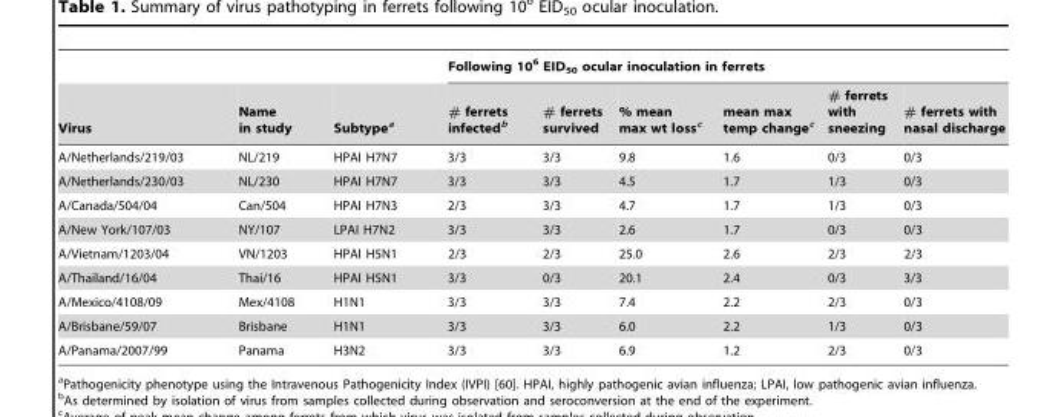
<table><thead><tr><td rowspan="2">Virus</td><td rowspan="2">Name in study</td><td rowspan="2">Subtype<sup>a</sup></td><td colspan="6">Following 10<sup>6</sup> EID<sub>50</sub> ocular inoculation in ferrets</td></tr><tr><td># ferrets infected<sup>b</sup></td><td># ferrets survived</td><td>% mean max wt loss<sup>c</sup></td><td>mean max temp change<sup>c</sup></td><td># ferrets with sneezing</td><td># ferrets with nasal discharge</td></tr></thead><tbody><tr><td>A/Netherlands/219/03</td><td>NL/219</td><td>HPAI H7N7</td><td>3/3</td><td>3/3</td><td>9.8</td><td>1.6</td><td>0/3</td><td>0/3</td></tr><tr><td>A/Netherlands/230/03</td><td>NL/230</td><td>HPAI H7N7</td><td>3/3</td><td>3/3</td><td>4.5</td><td>1.7</td><td>1/3</td><td>0/3</td></tr><tr><td>A/Canada/504/04</td><td>Can/504</td><td>HPAI H7N3</td><td>2/3</td><td>3/3</td><td>4.7</td><td>1.7</td><td>1/3</td><td>0/3</td></tr><tr><td>A/New York/107/03</td><td>NY/107</td><td>LPAI H7N2</td><td>3/3</td><td>3/3</td><td>2.6</td><td>1.7</td><td>0/3</td><td>0/3</td></tr><tr><td>A/Vietnam/1203/04</td><td>VN/1203</td><td>HPAI H5N1</td><td>2/3</td><td>2/3</td><td>25.0</td><td>2.6</td><td>2/3</td><td>2/3</td></tr><tr><td>A/Thailand/16/04</td><td>Thai/16</td><td>HPAI H5N1</td><td>3/3</td><td>0/3</td><td>20.1</td><td>2.4</td><td>0/3</td><td>3/3</td></tr><tr><td>A/Mexico/4108/09</td><td>Mex/4108</td><td>H1N1</td><td>3/3</td><td>3/3</td><td>7.4</td><td>2.2</td><td>2/3</td><td>0/3</td></tr><tr><td>A/Brisbane/59/07</td><td>Brisbane</td><td>H1N1</td><td>3/3</td><td>3/3</td><td>6.0</td><td>2.2</td><td>1/3</td><td>0/3</td></tr><tr><td>A/Panama/2007/99</td><td>Panama</td><td>H3N2</td><td>3/3</td><td>3/3</td><td>6.9</td><td>1.2</td><td>2/3</td><td>0/3</td></tr></tbody></table>